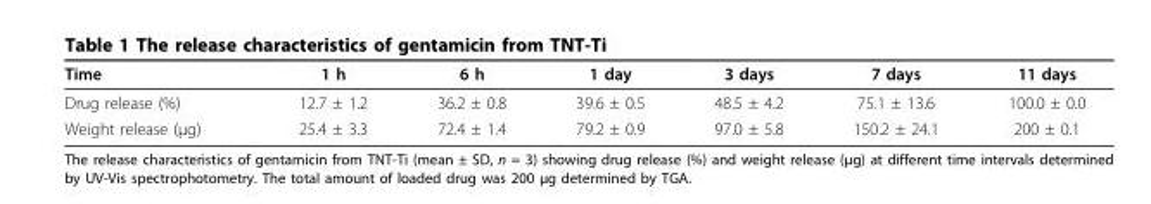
<table><thead><tr><td>Time</td><td>1 h</td><td>6 h</td><td>1 day</td><td>3 days</td><td>7 days</td><td>11 days</td></tr></thead><tbody><tr><td>Drug release (%)</td><td>12.7 ± 1.2</td><td>36.2 ± 0.8</td><td>39.6 ± 0.5</td><td>48.5 ± 4.2</td><td>75.1 ± 13.6</td><td>100.0 ± 0.0</td></tr><tr><td>Weight release (μg)</td><td>25.4 ± 3.3</td><td>72.4 ± 1.4</td><td>79.2 ± 0.9</td><td>97.0 ± 5.8</td><td>150.2 ± 24.1</td><td>200 ± 0.1</td></tr></tbody></table>